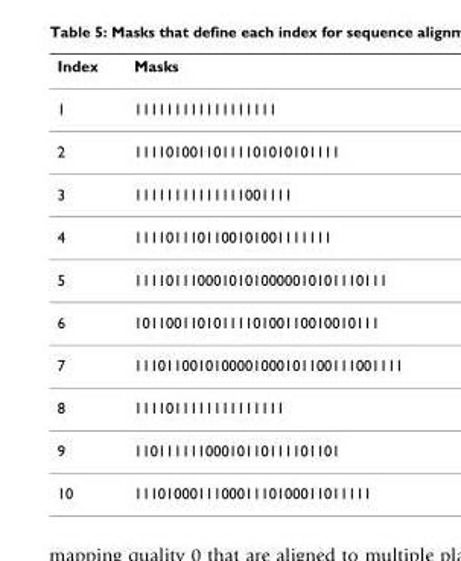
<table><thead><tr><td>Index</td><td>Masks</td></tr></thead><tbody><tr><td>1</td><td>111111111111111111</td></tr><tr><td>2</td><td>11110100110111101010101111</td></tr><tr><td>3</td><td>11111111111111001111</td></tr><tr><td>4</td><td>1111011101100101001111111</td></tr><tr><td>5</td><td>11110111000101010000010101110111</td></tr><tr><td>6</td><td>1011001101011110100110010010111</td></tr><tr><td>7</td><td>1110110010100001000101100111001111</td></tr><tr><td>8</td><td>1111011111111111111</td></tr><tr><td>9</td><td>11011111100010110111101101</td></tr><tr><td>10</td><td>111010001110001110100011011111</td></tr></tbody></table>